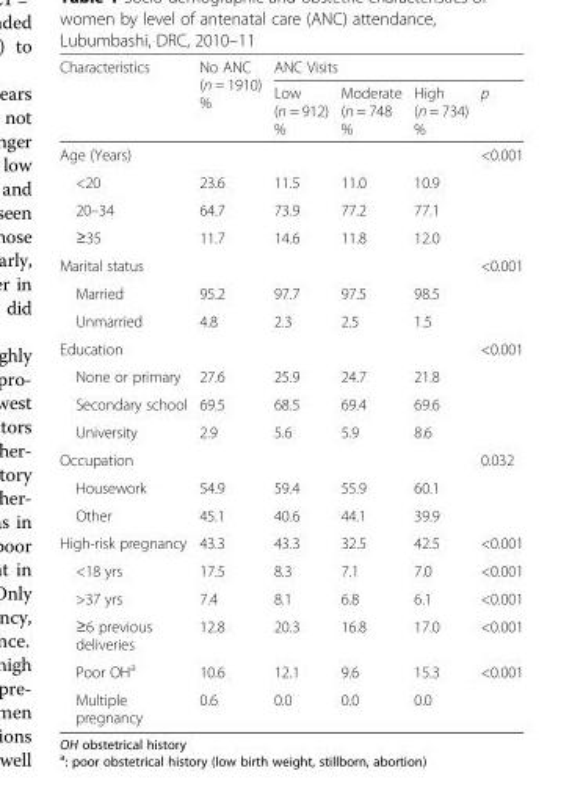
<table><thead><tr><td rowspan="2">Characteristics</td><td rowspan="2">No ANC (n = 1910) %</td><td colspan="4">ANC Visits</td></tr><tr><td>Low (n = 912) %</td><td>Moderate (n = 748 %</td><td>High (n = 734) %</td><td>p</td></tr></thead><tbody><tr><td>Age (Years)</td><td></td><td></td><td></td><td></td><td>&lt;0.001</td></tr><tr><td>&lt;20</td><td>23.6</td><td>11.5</td><td>11.0</td><td>10.9</td><td></td></tr><tr><td>20–34</td><td>64.7</td><td>73.9</td><td>77.2</td><td>77.1</td><td></td></tr><tr><td>≥35</td><td>11.7</td><td>14.6</td><td>11.8</td><td>12.0</td><td></td></tr><tr><td>Marital status</td><td></td><td></td><td></td><td></td><td>&lt;0.001</td></tr><tr><td>Married</td><td>95.2</td><td>97.7</td><td>97.5</td><td>98.5</td><td></td></tr><tr><td>Unmarried</td><td>4.8</td><td>2.3</td><td>2.5</td><td>1.5</td><td></td></tr><tr><td>Education</td><td></td><td></td><td></td><td></td><td>&lt;0.001</td></tr><tr><td>None or primary</td><td>27.6</td><td>25.9</td><td>24.7</td><td>21.8</td><td></td></tr><tr><td>Secondary school</td><td>69.5</td><td>68.5</td><td>69.4</td><td>69.6</td><td></td></tr><tr><td>University</td><td>2.9</td><td>5.6</td><td>5.9</td><td>8.6</td><td></td></tr><tr><td>Occupation</td><td></td><td></td><td></td><td></td><td>0.032</td></tr><tr><td>Housework</td><td>54.9</td><td>59.4</td><td>55.9</td><td>60.1</td><td></td></tr><tr><td>Other</td><td>45.1</td><td>40.6</td><td>44.1</td><td>39.9</td><td></td></tr><tr><td>High-risk pregnancy</td><td>43.3</td><td>43.3</td><td>32.5</td><td>42.5</td><td>&lt;0.001</td></tr><tr><td>&lt;18 yrs</td><td>17.5</td><td>8.3</td><td>7.1</td><td>7.0</td><td>&lt;0.001</td></tr><tr><td>&gt;37 yrs</td><td>7.4</td><td>8.1</td><td>6.8</td><td>6.1</td><td>&lt;0.001</td></tr><tr><td>≥6 previous deliveries</td><td>12.8</td><td>20.3</td><td>16.8</td><td>17.0</td><td>&lt;0.001</td></tr><tr><td>Poor OH<sup>a</sup></td><td>10.6</td><td>12.1</td><td>9.6</td><td>15.3</td><td>&lt;0.001</td></tr><tr><td>Multiple pregnancy</td><td>0.6</td><td>0.0</td><td>0.0</td><td>0.0</td><td></td></tr></tbody></table>